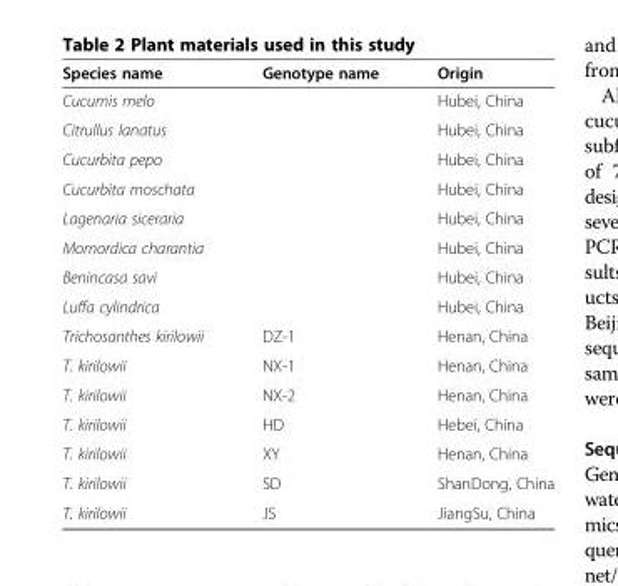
<table><thead><tr><td>Species name</td><td>Genotype name</td><td>Origin</td></tr></thead><tbody><tr><td>Cucumis melo</td><td></td><td>Hubei, China</td></tr><tr><td>Citrullus lanatus</td><td></td><td>Hubei, China</td></tr><tr><td>Cucurbita pepo</td><td></td><td>Hubei, China</td></tr><tr><td>Cucurbita moschata</td><td></td><td>Hubei, China</td></tr><tr><td>Lagenaria siceraria</td><td></td><td>Hubei, China</td></tr><tr><td>Momordica charantia</td><td></td><td>Hubei, China</td></tr><tr><td>Benincasa savi</td><td></td><td>Hubei, China</td></tr><tr><td>Luffa cylindrica</td><td></td><td>Hubei, China</td></tr><tr><td>Trichosanthes kirilowii</td><td>DZ-1</td><td>Henan, China</td></tr><tr><td>T. kirilowii</td><td>NX-1</td><td>Henan, China</td></tr><tr><td>T. kirilowii</td><td>NX-2</td><td>Henan, China</td></tr><tr><td>T. kirilowii</td><td>HD</td><td>Hebei, China</td></tr><tr><td>T. kirilowii</td><td>XY</td><td>Henan, China</td></tr><tr><td>T. kirilowii</td><td>SD</td><td>ShanDong, China</td></tr><tr><td>T. kirilowii</td><td>JS</td><td>JiangSu, China</td></tr></tbody></table>